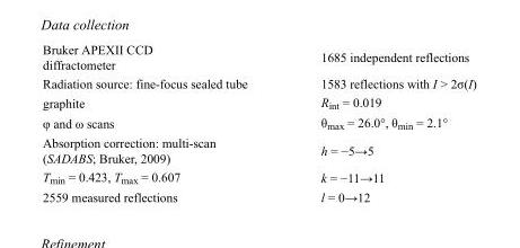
<table><tbody><tr><td>Bruker APEXII CCD diffractometer</td><td>1685 independent reflections</td></tr><tr><td>Radiation source: fine-focus sealed tube</td><td>1583 reflections with I &gt; 2σ(I)</td></tr><tr><td>graphite</td><td>R<sub>int</sub> = 0.019</td></tr><tr><td>φ and ω scans</td><td>θ<sub>max</sub> = 26.0°, θ<sub>min</sub> = 2.1°</td></tr><tr><td>Absorption correction: multi-scan (SADABS; Bruker, 2009)</td><td>h = −5→5</td></tr><tr><td>T<sub>min</sub> = 0.423, T<sub>max</sub> = 0.607</td><td>k = −11→11</td></tr><tr><td>2559 measured reflections</td><td>l = 0→12</td></tr></tbody></table>